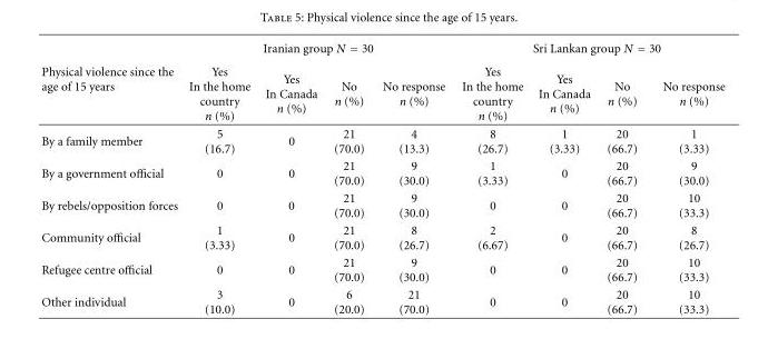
<table><thead><tr><td rowspan="2">Physical violence since the age of 15 years</td><td colspan="4">Iranian group N = 30</td><td colspan="4">Sri Lankan group N = 30</td></tr><tr><td>Yes In the home country n (%)</td><td>Yes In Canada n (%)</td><td>No n (%)</td><td>No response n (%)</td><td>Yes In the home country n (%)</td><td>Yes In Canada n (%)</td><td>No n (%)</td><td>No response n (%)</td></tr></thead><tbody><tr><td>By a family member</td><td>5 (16.7)</td><td>0</td><td>21 (70.0)</td><td>4 (13.3)</td><td>8 (26.7)</td><td>1 (3.33)</td><td>20 (66.7)</td><td>1 (3.33)</td></tr><tr><td>By a government official</td><td>0</td><td>0</td><td>21 (70.0)</td><td>9 (30.0)</td><td>1 (3.33)</td><td>0</td><td>20 (66.7)</td><td>9 (30.0)</td></tr><tr><td>By rebels/opposition forces</td><td>0</td><td>0</td><td>21 (70.0)</td><td>9 (30.0)</td><td>0</td><td>0</td><td>20 (66.7)</td><td>10 (33.3)</td></tr><tr><td>Community official</td><td>1 (3.33)</td><td>0</td><td>21 (70.0)</td><td>8 (26.7)</td><td>2 (6.67)</td><td>0</td><td>20 (66.7)</td><td>8 (26.7)</td></tr><tr><td>Refugee centre official</td><td>0</td><td>0</td><td>21 (70.0)</td><td>9 (30.0)</td><td>0</td><td>0</td><td>20 (66.7)</td><td>10 (33.3)</td></tr><tr><td>Other individual</td><td>3 (10.0)</td><td>0</td><td>6 (20.0)</td><td>21 (70.0)</td><td>0</td><td>0</td><td>20 (66.7)</td><td>10 (33.3)</td></tr></tbody></table>